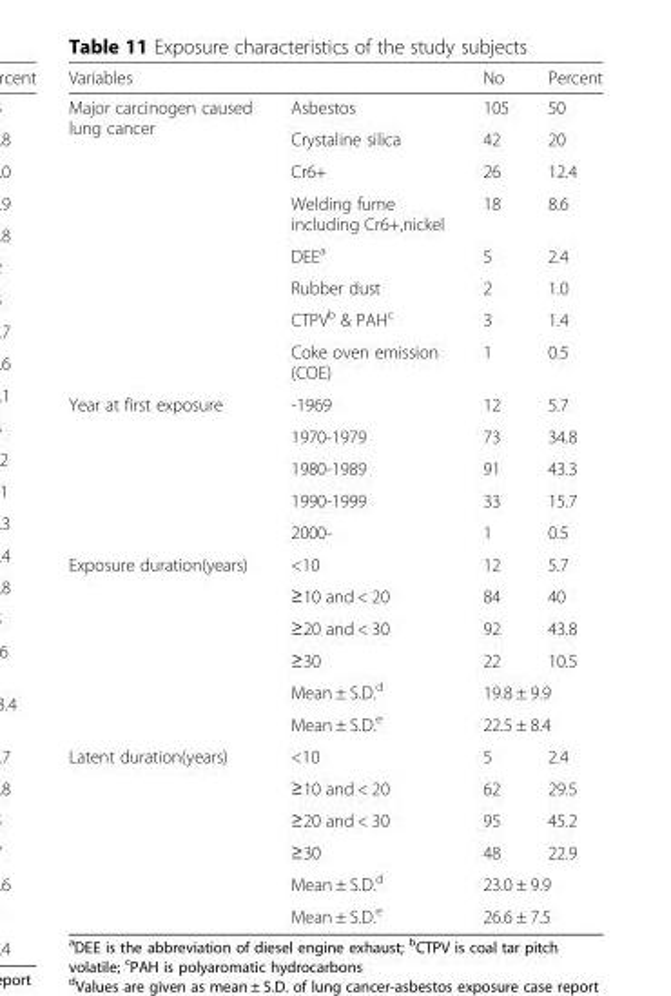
<table><thead><tr><td>Variables</td><td></td><td>No</td><td>Percent</td></tr></thead><tbody><tr><td rowspan="8">Major carcinogen caused lung cancer</td><td>Asbestos</td><td>105</td><td>50</td></tr><tr><td>Crystaline silica</td><td>42</td><td>20</td></tr><tr><td>Cr6+</td><td>26</td><td>12.4</td></tr><tr><td>Welding fume including Cr6+,nickel</td><td>18</td><td>8.6</td></tr><tr><td>DEE<sup>a</sup></td><td>5</td><td>2.4</td></tr><tr><td>Rubber dust</td><td>2</td><td>1.0</td></tr><tr><td>CTPV<sup>b</sup> &amp; PAH<sup>c</sup></td><td>3</td><td>1.4</td></tr><tr><td>Coke oven emission (COE)</td><td>1</td><td>0.5</td></tr><tr><td rowspan="5">Year at first exposure</td><td>-1969</td><td>12</td><td>5.7</td></tr><tr><td>1970-1979</td><td>73</td><td>34.8</td></tr><tr><td>1980-1989</td><td>91</td><td>43.3</td></tr><tr><td>1990-1999</td><td>33</td><td>15.7</td></tr><tr><td>2000-</td><td>1</td><td>0.5</td></tr><tr><td rowspan="6">Exposure duration(years)</td><td>&lt;10</td><td>12</td><td>5.7</td></tr><tr><td>≥10 and &lt; 20</td><td>84</td><td>40</td></tr><tr><td>≥20 and &lt; 30</td><td>92</td><td>43.8</td></tr><tr><td>≥30</td><td>22</td><td>10.5</td></tr><tr><td>Mean ± S.D.<sup>d</sup></td><td colspan="2">19.8 ± 9.9</td></tr><tr><td>Mean ± S.D.<sup>e</sup></td><td colspan="2">22.5 ± 8.4</td></tr><tr><td rowspan="6">Latent duration(years)</td><td>&lt;10</td><td>5</td><td>2.4</td></tr><tr><td>≥10 and &lt; 20</td><td>62</td><td>29.5</td></tr><tr><td>≥20 and &lt; 30</td><td>95</td><td>45.2</td></tr><tr><td>≥30</td><td>48</td><td>22.9</td></tr><tr><td>Mean ± S.D.<sup>d</sup></td><td colspan="2">23.0 ± 9.9</td></tr><tr><td>Mean ± S.D.<sup>e</sup></td><td colspan="2">26.6 ± 7.5</td></tr></tbody></table>